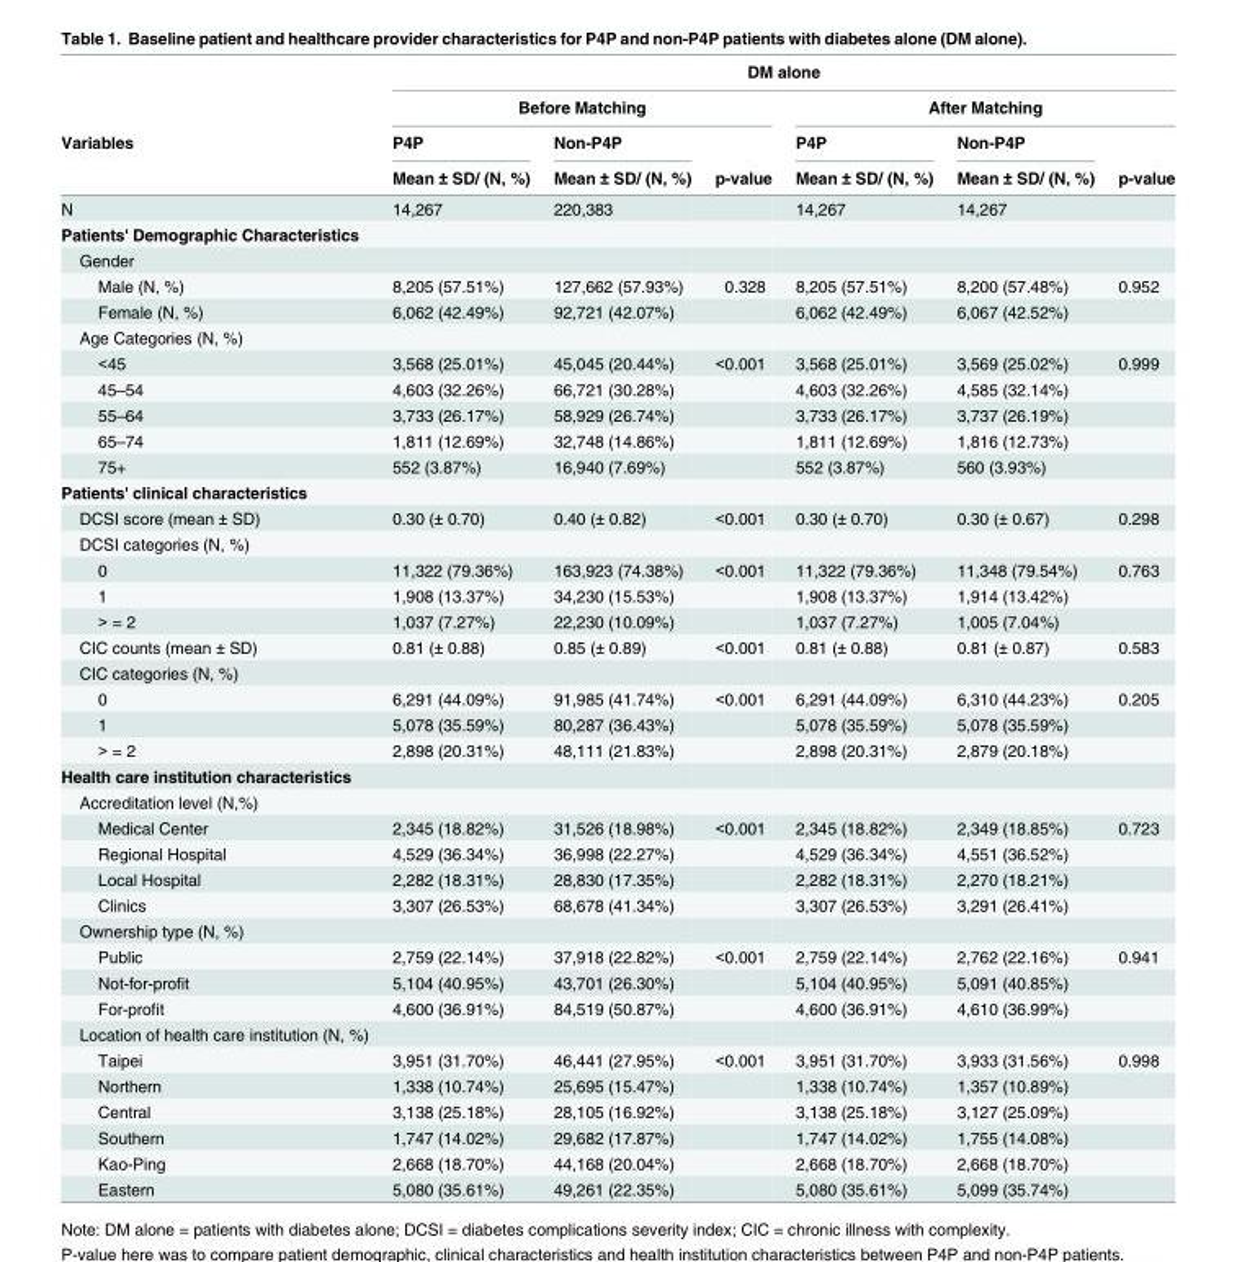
<table><thead><tr><td rowspan="4">Variables</td><td colspan="6">DM alone</td></tr><tr><td colspan="3">Before Matching</td><td colspan="3">After Matching</td></tr><tr><td rowspan="2">P4P Mean ± SD/ (N, %)</td><td rowspan="2">Non-P4P Mean ± SD/ (N, %)</td><td rowspan="2">p-value</td><td rowspan="2">P4P Mean ± SD/ (N, %)</td><td rowspan="2">Non-P4P Mean ± SD/ (N, %)</td><td rowspan="2">p-value</td></tr><tr></tr></thead><tbody><tr><td>N</td><td>14,267</td><td>220,383</td><td></td><td>14,267</td><td>14,267</td><td></td></tr><tr><td colspan="7">Patients&#x27; Demographic Characteristics</td></tr><tr><td colspan="7">Gender</td></tr><tr><td>Male (N, %)</td><td>8,205 (57.51%)</td><td>127,662 (57.93%)</td><td>0.328</td><td>8,205 (57.51%)</td><td>8,200 (57.48%)</td><td>0.952</td></tr><tr><td>Female (N, %)</td><td>6,062 (42.49%)</td><td>92,721 (42.07%)</td><td></td><td>6,062 (42.49%)</td><td>6,067 (42.52%)</td><td></td></tr><tr><td colspan="7">Age Categories (N, %)</td></tr><tr><td>&lt;45</td><td>3,568 (25.01%)</td><td>45,045 (20.44%)</td><td>&lt;0.001</td><td>3,568 (25.01%)</td><td>3,569 (25.02%)</td><td>0.999</td></tr><tr><td>45–54</td><td>4,603 (32.26%)</td><td>66,721 (30.28%)</td><td></td><td>4,603 (32.26%)</td><td>4,585 (32.14%)</td><td></td></tr><tr><td>55–64</td><td>3,733 (26.17%)</td><td>58,929 (26.74%)</td><td></td><td>3,733 (26.17%)</td><td>3,737 (26.19%)</td><td></td></tr><tr><td>65–74</td><td>1,811 (12.69%)</td><td>32,748 (14.86%)</td><td></td><td>1,811 (12.69%)</td><td>1,816 (12.73%)</td><td></td></tr><tr><td>75+</td><td>552 (3.87%)</td><td>16,940 (7.69%)</td><td></td><td>552 (3.87%)</td><td>560 (3.93%)</td><td></td></tr><tr><td colspan="7">Patients&#x27; clinical characteristics</td></tr><tr><td>DCSI score (mean ± SD)</td><td>0.30 (± 0.70)</td><td>0.40 (± 0.82)</td><td>&lt;0.001</td><td>0.30 (± 0.70)</td><td>0.30 (± 0.67)</td><td>0.298</td></tr><tr><td colspan="7">DCSI categories (N, %)</td></tr><tr><td>0</td><td>11,322 (79.36%)</td><td>163,923 (74.38%)</td><td>&lt;0.001</td><td>11,322 (79.36%)</td><td>11,348 (79.54%)</td><td>0.763</td></tr><tr><td>1</td><td>1,908 (13.37%)</td><td>34,230 (15.53%)</td><td></td><td>1,908 (13.37%)</td><td>1,914 (13.42%)</td><td></td></tr><tr><td>&gt; = 2</td><td>1,037 (7.27%)</td><td>22,230 (10.09%)</td><td></td><td>1,037 (7.27%)</td><td>1,005 (7.04%)</td><td></td></tr><tr><td>CIC counts (mean ± SD)</td><td>0.81 (± 0.88)</td><td>0.85 (± 0.89)</td><td>&lt;0.001</td><td>0.81 (± 0.88)</td><td>0.81 (± 0.87)</td><td>0.583</td></tr><tr><td colspan="7">CIC categories (N, %)</td></tr><tr><td>0</td><td>6,291 (44.09%)</td><td>91,985 (41.74%)</td><td>&lt;0.001</td><td>6,291 (44.09%)</td><td>6,310 (44.23%)</td><td>0.205</td></tr><tr><td>1</td><td>5,078 (35.59%)</td><td>80,287 (36.43%)</td><td></td><td>5,078 (35.59%)</td><td>5,078 (35.59%)</td><td></td></tr><tr><td>&gt; = 2</td><td>2,898 (20.31%)</td><td>48,111 (21.83%)</td><td></td><td>2,898 (20.31%)</td><td>2,879 (20.18%)</td><td></td></tr><tr><td colspan="7">Health care institution characteristics</td></tr><tr><td colspan="7">Accreditation level (N,%)</td></tr><tr><td>Medical Center</td><td>2,345 (18.82%)</td><td>31,526 (18.98%)</td><td>&lt;0.001</td><td>2,345 (18.82%)</td><td>2,349 (18.85%)</td><td>0.723</td></tr><tr><td>Regional Hospital</td><td>4,529 (36.34%)</td><td>36,998 (22.27%)</td><td></td><td>4,529 (36.34%)</td><td>4,551 (36.52%)</td><td></td></tr><tr><td>Local Hospital</td><td>2,282 (18.31%)</td><td>28,830 (17.35%)</td><td></td><td>2,282 (18.31%)</td><td>2,270 (18.21%)</td><td></td></tr><tr><td>Clinics</td><td>3,307 (26.53%)</td><td>68,678 (41.34%)</td><td></td><td>3,307 (26.53%)</td><td>3,291 (26.41%)</td><td></td></tr><tr><td colspan="7">Ownership type (N, %)</td></tr><tr><td>Public</td><td>2,759 (22.14%)</td><td>37,918 (22.82%)</td><td>&lt;0.001</td><td>2,759 (22.14%)</td><td>2,762 (22.16%)</td><td>0.941</td></tr><tr><td>Not-for-profit</td><td>5,104 (40.95%)</td><td>43,701 (26.30%)</td><td></td><td>5,104 (40.95%)</td><td>5,091 (40.85%)</td><td></td></tr><tr><td>For-profit</td><td>4,600 (36.91%)</td><td>84,519 (50.87%)</td><td></td><td>4,600 (36.91%)</td><td>4,610 (36.99%)</td><td></td></tr><tr><td colspan="7">Location of health care institution (N, %)</td></tr><tr><td>Taipei</td><td>3,951 (31.70%)</td><td>46,441 (27.95%)</td><td>&lt;0.001</td><td>3,951 (31.70%)</td><td>3,933 (31.56%)</td><td>0.998</td></tr><tr><td>Northern</td><td>1,338 (10.74%)</td><td>25,695 (15.47%)</td><td></td><td>1,338 (10.74%)</td><td>1,357 (10.89%)</td><td></td></tr><tr><td>Central</td><td>3,138 (25.18%)</td><td>28,105 (16.92%)</td><td></td><td>3,138 (25.18%)</td><td>3,127 (25.09%)</td><td></td></tr><tr><td>Southern</td><td>1,747 (14.02%)</td><td>29,682 (17.87%)</td><td></td><td>1,747 (14.02%)</td><td>1,755 (14.08%)</td><td></td></tr><tr><td>Kao-Ping</td><td>2,668 (18.70%)</td><td>44,168 (20.04%)</td><td></td><td>2,668 (18.70%)</td><td>2,668 (18.70%)</td><td></td></tr><tr><td>Eastern</td><td>5,080 (35.61%)</td><td>49,261 (22.35%)</td><td></td><td>5,080 (35.61%)</td><td>5,099 (35.74%)</td><td></td></tr></tbody></table>